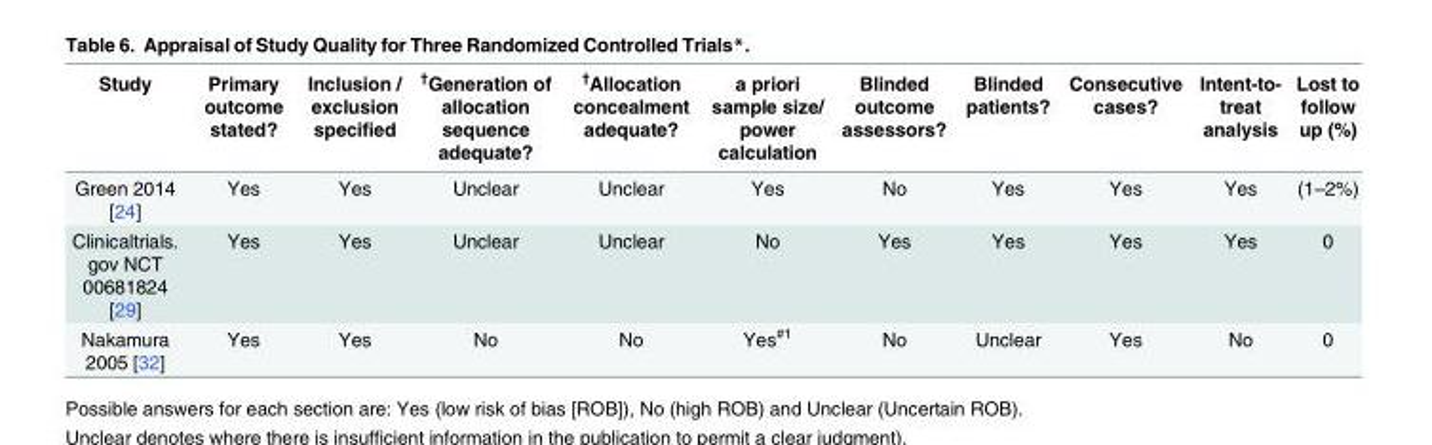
<table><thead><tr><td>Study</td><td>Primary outcome stated?</td><td>Inclusion / exclusion specified</td><td><sup>†</sup>Generation of allocation sequence adequate?</td><td><sup>†</sup>Allocation concealment adequate?</td><td>a priori sample size/ power calculation</td><td>Blinded outcome assessors?</td><td>Blinded patients?</td><td>Consecutive cases?</td><td>Intent-to- treat analysis</td><td>Lost to follow up (%)</td></tr></thead><tbody><tr><td>Green 2014 [24]</td><td>Yes</td><td>Yes</td><td>Unclear</td><td>Unclear</td><td>Yes</td><td>No</td><td>Yes</td><td>Yes</td><td>Yes</td><td>(1–2%)</td></tr><tr><td>Clinicaltrials. gov NCT 00681824 [29]</td><td>Yes</td><td>Yes</td><td>Unclear</td><td>Unclear</td><td>No</td><td>Yes</td><td>Yes</td><td>Yes</td><td>Yes</td><td>0</td></tr><tr><td>Nakamura 2005 [32]</td><td>Yes</td><td>Yes</td><td>No</td><td>No</td><td>Yes<sup>#1</sup></td><td>No</td><td>Unclear</td><td>Yes</td><td>No</td><td>0</td></tr></tbody></table>